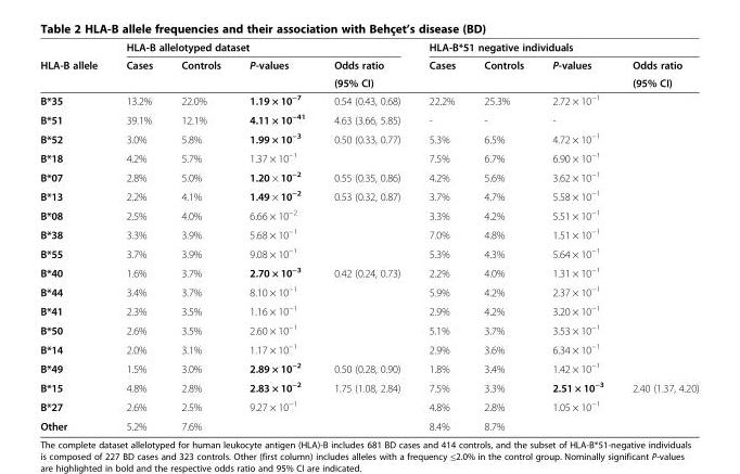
<table><thead><tr><td rowspan="3">HLA-B allele</td><td colspan="4">HLA-B allelotyped dataset</td><td colspan="4">HLA-B*51 negative individuals</td></tr><tr><td rowspan="2">Cases</td><td rowspan="2">Controls</td><td rowspan="2">P-values</td><td rowspan="2">Odds ratio (95% CI)</td><td rowspan="2">Cases</td><td rowspan="2">Controls</td><td rowspan="2">P-values</td><td rowspan="2">Odds ratio (95% CI)</td></tr><tr></tr></thead><tbody><tr><td>B*35</td><td>13.2%</td><td>22.0%</td><td>1.19 × 10<sup>−7</sup></td><td>0.54 (0.43, 0.68)</td><td>22.2%</td><td>25.3%</td><td>2.72 × 10<sup>−1</sup></td><td></td></tr><tr><td>B*51</td><td>39.1%</td><td>12.1%</td><td>4.11 × 10<sup>−41</sup></td><td>4.63 (3.66, 5.85)</td><td>-</td><td>-</td><td>-</td><td></td></tr><tr><td>B*52</td><td>3.0%</td><td>5.8%</td><td>1.99 × 10<sup>−3</sup></td><td>0.50 (0.33, 0.77)</td><td>5.3%</td><td>6.5%</td><td>4.72 × 10<sup>−1</sup></td><td></td></tr><tr><td>B*18</td><td>4.2%</td><td>5.7%</td><td>1.37 × 10<sup>−1</sup></td><td></td><td>7.5%</td><td>6.7%</td><td>6.90 × 10<sup>−1</sup></td><td></td></tr><tr><td>B*07</td><td>2.8%</td><td>5.0%</td><td>1.20 × 10<sup>−2</sup></td><td>0.55 (0.35, 0.86)</td><td>4.2%</td><td>5.6%</td><td>3.62 × 10<sup>−1</sup></td><td></td></tr><tr><td>B*13</td><td>2.2%</td><td>4.1%</td><td>1.49 × 10<sup>−2</sup></td><td>0.53 (0.32, 0.87)</td><td>3.7%</td><td>4.7%</td><td>5.58 × 10<sup>−1</sup></td><td></td></tr><tr><td>B*08</td><td>2.5%</td><td>4.0%</td><td>6.66 × 10<sup>−2</sup></td><td></td><td>3.3%</td><td>4.2%</td><td>5.51 × 10<sup>−1</sup></td><td></td></tr><tr><td>B*38</td><td>3.3%</td><td>3.9%</td><td>5.68 × 10<sup>−1</sup></td><td></td><td>7.0%</td><td>4.8%</td><td>1.51 × 10<sup>−1</sup></td><td></td></tr><tr><td>B*55</td><td>3.7%</td><td>3.9%</td><td>9.08 × 10<sup>−1</sup></td><td></td><td>5.3%</td><td>4.3%</td><td>5.64 × 10<sup>−1</sup></td><td></td></tr><tr><td>B*40</td><td>1.6%</td><td>3.7%</td><td>2.70 × 10<sup>−3</sup></td><td>0.42 (0.24, 0.73)</td><td>2.2%</td><td>4.0%</td><td>1.31 × 10<sup>−1</sup></td><td></td></tr><tr><td>B*44</td><td>3.4%</td><td>3.7%</td><td>8.10 × 10<sup>−1</sup></td><td></td><td>5.9%</td><td>4.2%</td><td>2.37 × 10<sup>−1</sup></td><td></td></tr><tr><td>B*41</td><td>2.3%</td><td>3.5%</td><td>1.16 × 10<sup>−1</sup></td><td></td><td>2.9%</td><td>4.2%</td><td>3.20 × 10<sup>−1</sup></td><td></td></tr><tr><td>B*50</td><td>2.6%</td><td>3.5%</td><td>2.60 × 10<sup>−1</sup></td><td></td><td>5.1%</td><td>3.7%</td><td>3.53 × 10<sup>−1</sup></td><td></td></tr><tr><td>B*14</td><td>2.0%</td><td>3.1%</td><td>1.17 × 10<sup>−1</sup></td><td></td><td>2.9%</td><td>3.6%</td><td>6.34 × 10<sup>−1</sup></td><td></td></tr><tr><td>B*49</td><td>1.5%</td><td>3.0%</td><td>2.89 × 10<sup>−2</sup></td><td>0.50 (0.28, 0.90)</td><td>1.8%</td><td>3.4%</td><td>1.42 × 10<sup>−1</sup></td><td></td></tr><tr><td>B*15</td><td>4.8%</td><td>2.8%</td><td>2.83 × 10<sup>−2</sup></td><td>1.75 (1.08, 2.84)</td><td>7.5%</td><td>3.3%</td><td>2.51 × 10<sup>−3</sup></td><td>2.40 (1.37, 4.20)</td></tr><tr><td>B*27</td><td>2.6%</td><td>2.5%</td><td>9.27 × 10<sup>−1</sup></td><td></td><td>4.8%</td><td>2.8%</td><td>1.05 × 10<sup>−1</sup></td><td></td></tr><tr><td>Other</td><td>5.2%</td><td>7.6%</td><td></td><td></td><td>8.4%</td><td>8.7%</td><td></td><td></td></tr></tbody></table>